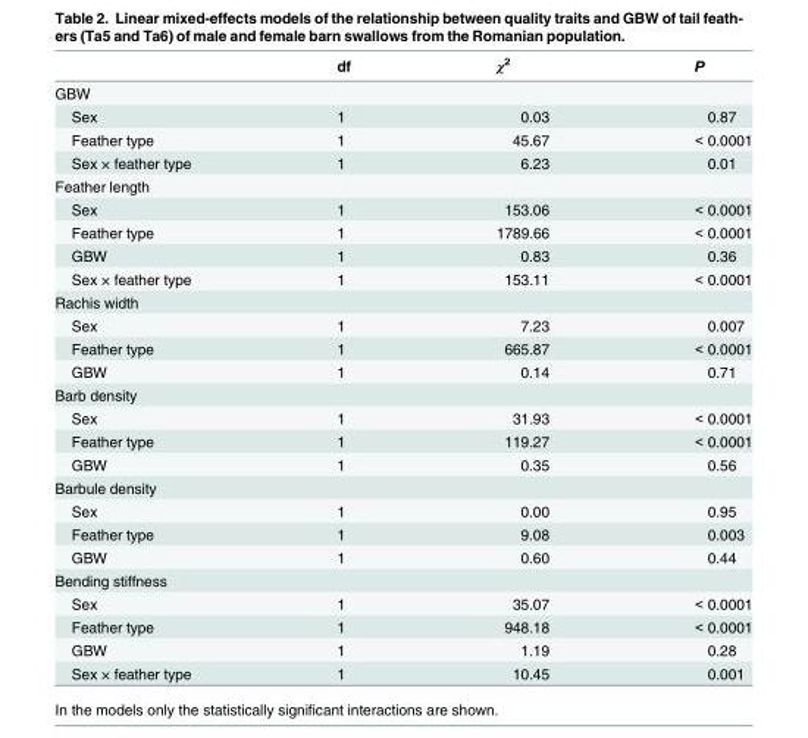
<table><thead><tr><td></td><td>df</td><td>χ<sup>2</sup></td><td>P</td></tr></thead><tbody><tr><td colspan="4">GBW</td></tr><tr><td>Sex</td><td>1</td><td>0.03</td><td>0.87</td></tr><tr><td>Feather type</td><td>1</td><td>45.67</td><td>&lt; 0.0001</td></tr><tr><td>Sex × feather type</td><td>1</td><td>6.23</td><td>0.01</td></tr><tr><td colspan="4">Feather length</td></tr><tr><td>Sex</td><td>1</td><td>153.06</td><td>&lt; 0.0001</td></tr><tr><td>Feather type</td><td>1</td><td>1789.66</td><td>&lt; 0.0001</td></tr><tr><td>GBW</td><td>1</td><td>0.83</td><td>0.36</td></tr><tr><td>Sex × feather type</td><td>1</td><td>153.11</td><td>&lt; 0.0001</td></tr><tr><td colspan="4">Rachis width</td></tr><tr><td>Sex</td><td>1</td><td>7.23</td><td>0.007</td></tr><tr><td>Feather type</td><td>1</td><td>665.87</td><td>&lt; 0.0001</td></tr><tr><td>GBW</td><td>1</td><td>0.14</td><td>0.71</td></tr><tr><td colspan="4">Barb density</td></tr><tr><td>Sex</td><td>1</td><td>31.93</td><td>&lt; 0.0001</td></tr><tr><td>Feather type</td><td>1</td><td>119.27</td><td>&lt; 0.0001</td></tr><tr><td>GBW</td><td>1</td><td>0.35</td><td>0.56</td></tr><tr><td colspan="4">Barbule density</td></tr><tr><td>Sex</td><td>1</td><td>0.00</td><td>0.95</td></tr><tr><td>Feather type</td><td>1</td><td>9.08</td><td>0.003</td></tr><tr><td>GBW</td><td>1</td><td>0.60</td><td>0.44</td></tr><tr><td colspan="4">Bending stiffness</td></tr><tr><td>Sex</td><td>1</td><td>35.07</td><td>&lt; 0.0001</td></tr><tr><td>Feather type</td><td>1</td><td>948.18</td><td>&lt; 0.0001</td></tr><tr><td>GBW</td><td>1</td><td>1.19</td><td>0.28</td></tr><tr><td>Sex × feather type</td><td>1</td><td>10.45</td><td>0.001</td></tr></tbody></table>